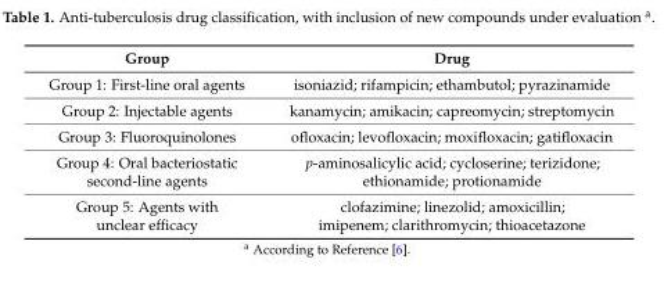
<table><thead><tr><td>Group</td><td>Drug</td></tr></thead><tbody><tr><td>Group 1: First-line oral agents</td><td>isoniazid; rifampicin; ethambutol; pyrazinamide</td></tr><tr><td>Group 2: Injectable agents</td><td>kanamycin; amikacin; capreomycin; streptomycin</td></tr><tr><td>Group 3: Fluoroquinolones</td><td>ofloxacin; levofloxacin; moxifloxacin; gatifloxacin</td></tr><tr><td>Group 4: Oral bacteriostatic second-line agents</td><td>p-aminosalicylic acid; cycloserine; terizidone; ethionamide; protionamide</td></tr><tr><td>Group 5: Agents with unclear efficacy</td><td>clofazimine; linezolid; amoxicillin; imipenem; clarithromycin; thioacetazone</td></tr></tbody></table>